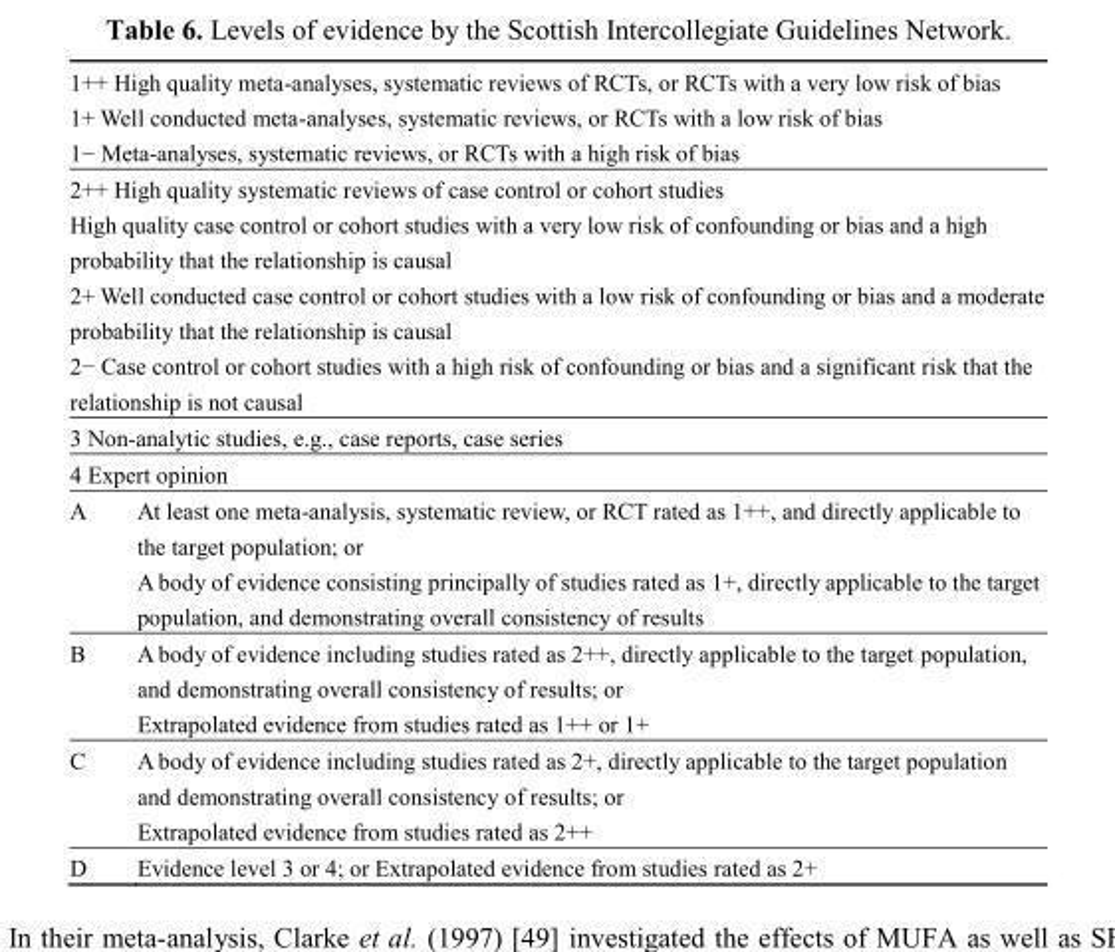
<table><tbody><tr><td colspan="2">1++ High quality meta-analyses, systematic reviews of RCTs, or RCTs with a very low risk of bias</td></tr><tr><td colspan="2">1+ Well conducted meta-analyses, systematic reviews, or RCTs with a low risk of bias</td></tr><tr><td colspan="2">1− Meta-analyses, systematic reviews, or RCTs with a high risk of bias</td></tr><tr><td colspan="2">2++ High quality systematic reviews of case control or cohort studies</td></tr><tr><td colspan="2">High quality case control or cohort studies with a very low risk of confounding or bias and a high probability that the relationship is causal</td></tr><tr><td colspan="2">2+ Well conducted case control or cohort studies with a low risk of confounding or bias and a moderate probability that the relationship is causal</td></tr><tr><td colspan="2">2− Case control or cohort studies with a high risk of confounding or bias and a significant risk that the relationship is not causal</td></tr><tr><td colspan="2">3 Non-analytic studies, e.g., case reports, case series</td></tr><tr><td colspan="2">4 Expert opinion</td></tr><tr><td rowspan="2">A</td><td>At least one meta-analysis, systematic review, or RCT rated as 1++, and directly applicable to the target population; or</td></tr><tr><td>A body of evidence consisting principally of studies rated as 1+, directly applicable to the target population, and demonstrating overall consistency of results</td></tr><tr><td rowspan="2">B</td><td>A body of evidence including studies rated as 2++, directly applicable to the target population, and demonstrating overall consistency of results; or</td></tr><tr><td>Extrapolated evidence from studies rated as 1++ or 1+</td></tr><tr><td rowspan="2">C</td><td>A body of evidence including studies rated as 2+, directly applicable to the target population and demonstrating overall consistency of results; or</td></tr><tr><td>Extrapolated evidence from studies rated as 2++</td></tr><tr><td>D</td><td>Evidence level 3 or 4; or Extrapolated evidence from studies rated as 2+</td></tr></tbody></table>